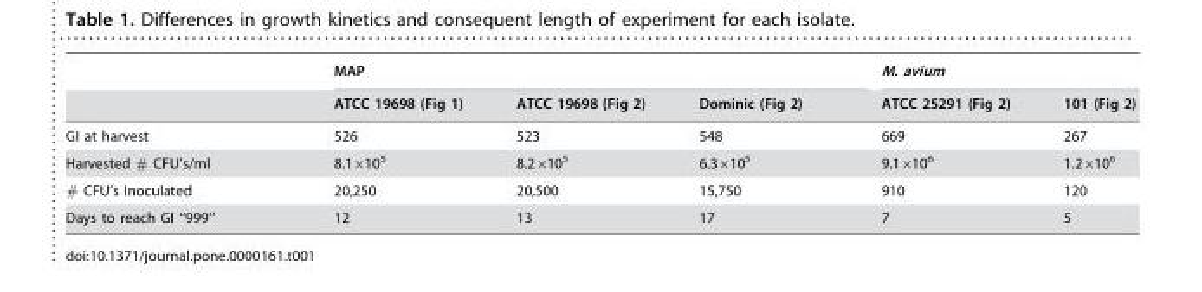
<table><thead><tr><td rowspan="2"></td><td colspan="3">MAP</td><td colspan="2">M. avium</td></tr><tr><td>ATCC 19698 (Fig 1)</td><td>ATCC 19698 (Fig 2)</td><td>Dominic (Fig 2)</td><td>ATCC 25291 (Fig 2)</td><td>101 (Fig 2)</td></tr></thead><tbody><tr><td>GI at harvest</td><td>526</td><td>523</td><td>548</td><td>669</td><td>267</td></tr><tr><td>Harvested # CFU’s/ml</td><td>8.1×10<sup>5</sup></td><td>8.2×10<sup>5</sup></td><td>6.3×10<sup>5</sup></td><td>9.1×10<sup>6</sup></td><td>1.2×10<sup>6</sup></td></tr><tr><td># CFU’s Inoculated</td><td>20,250</td><td>20,500</td><td>15,750</td><td>910</td><td>120</td></tr><tr><td>Days to reach GI ‘‘999’’</td><td>12</td><td>13</td><td>17</td><td>7</td><td>5</td></tr></tbody></table>